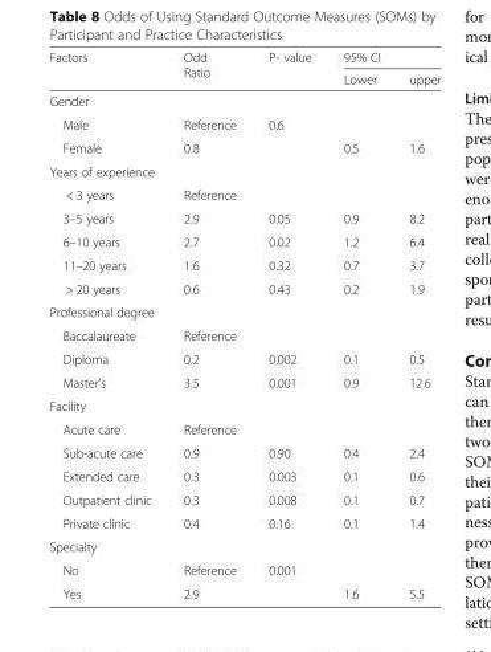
<table><thead><tr><td rowspan="2">Factors</td><td rowspan="2">Odd Ratio</td><td rowspan="2">P- value</td><td colspan="2">95% CI</td></tr><tr><td>Lower</td><td>upper</td></tr></thead><tbody><tr><td colspan="5">Gender</td></tr><tr><td>Male</td><td>Reference</td><td rowspan="2">0.6</td><td></td><td></td></tr><tr><td>Female</td><td>0.8</td><td>0.5</td><td>1.6</td></tr><tr><td colspan="5">Years of experience</td></tr><tr><td>&lt; 3 years</td><td>Reference</td><td></td><td></td><td></td></tr><tr><td>3–5 years</td><td>2.9</td><td>0.05</td><td>0.9</td><td>8.2</td></tr><tr><td>6–10 years</td><td>2.7</td><td>0.02</td><td>1.2</td><td>6.4</td></tr><tr><td>11–20 years</td><td>1.6</td><td>0.32</td><td>0.7</td><td>3.7</td></tr><tr><td>&gt; 20 years</td><td>0.6</td><td>0.43</td><td>0.2</td><td>1.9</td></tr><tr><td colspan="5">Professional degree</td></tr><tr><td>Baccalaureate</td><td>Reference</td><td></td><td></td><td></td></tr><tr><td>Diploma</td><td>0.2</td><td>0.002</td><td>0.1</td><td>0.5</td></tr><tr><td>Master’s</td><td>3.5</td><td>0.001</td><td>0.9</td><td>12.6</td></tr><tr><td colspan="5">Facility</td></tr><tr><td>Acute care</td><td>Reference</td><td></td><td></td><td></td></tr><tr><td>Sub-acute care</td><td>0.9</td><td>0.90</td><td>0.4</td><td>2.4</td></tr><tr><td>Extended care</td><td>0.3</td><td>0.003</td><td>0.1</td><td>0.6</td></tr><tr><td>Outpatient clinic</td><td>0.3</td><td>0.008</td><td>0.1</td><td>0.7</td></tr><tr><td>Private clinic</td><td>0.4</td><td>0.16</td><td>0.1</td><td>1.4</td></tr><tr><td colspan="5">Specialty</td></tr><tr><td>No</td><td>Reference</td><td rowspan="2">0.001</td><td></td><td></td></tr><tr><td>Yes</td><td>2.9</td><td>1.6</td><td>5.5</td></tr></tbody></table>